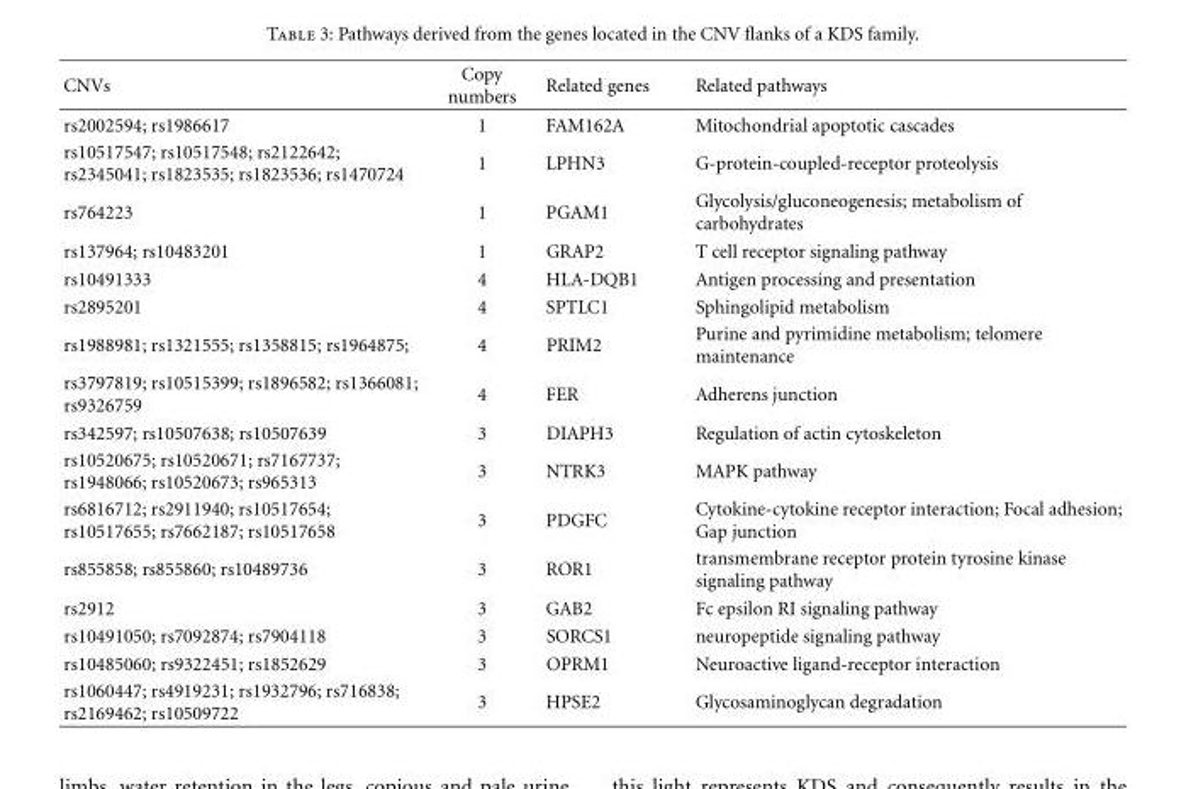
<table><thead><tr><td>CNVs</td><td>Copy numbers</td><td>Related genes</td><td>Related pathways</td></tr></thead><tbody><tr><td>rs2002594; rs1986617</td><td>1</td><td>FAM162A</td><td>Mitochondrial apoptotic cascades</td></tr><tr><td>rs10517547; rs10517548; rs2122642; rs2345041; rs1823535; rs1823536; rs1470724</td><td>1</td><td>LPHN3</td><td>G-protein-coupled-receptor proteolysis</td></tr><tr><td>rs764223</td><td>1</td><td>PGAM1</td><td>Glycolysis/gluconeogenesis; metabolism of carbohydrates</td></tr><tr><td>rs137964; rs10483201</td><td>1</td><td>GRAP2</td><td>T cell receptor signaling pathway</td></tr><tr><td>rs10491333</td><td>4</td><td>HLA-DQB1</td><td>Antigen processing and presentation</td></tr><tr><td>rs2895201</td><td>4</td><td>SPTLC1</td><td>Sphingolipid metabolism</td></tr><tr><td>rs1988981; rs1321555; rs1358815; rs1964875;</td><td>4</td><td>PRIM2</td><td>Purine and pyrimidine metabolism; telomere maintenance</td></tr><tr><td>rs3797819; rs10515399; rs1896582; rs1366081; rs9326759</td><td>4</td><td>FER</td><td>Adherens junction</td></tr><tr><td>rs342597; rs10507638; rs10507639</td><td>3</td><td>DIAPH3</td><td>Regulation of actin cytoskeleton</td></tr><tr><td>rs10520675; rs10520671; rs7167737; rs1948066; rs10520673; rs965313</td><td>3</td><td>NTRK3</td><td>MAPK pathway</td></tr><tr><td>rs6816712; rs2911940; rs10517654; rs10517655; rs7662187; rs10517658</td><td>3</td><td>PDGFC</td><td>Cytokine-cytokine receptor interaction; Focal adhesion; Gap junction</td></tr><tr><td>rs855858; rs855860; rs10489736</td><td>3</td><td>ROR1</td><td>transmembrane receptor protein tyrosine kinase signaling pathway</td></tr><tr><td>rs2912</td><td>3</td><td>GAB2</td><td>Fc epsilon RI signaling pathway</td></tr><tr><td>rs10491050; rs7092874; rs7904118</td><td>3</td><td>SORCS1</td><td>neuropeptide signaling pathway</td></tr><tr><td>rs10485060; rs9322451; rs1852629</td><td>3</td><td>OPRM1</td><td>Neuroactive ligand-receptor interaction</td></tr><tr><td>rs1060447; rs4919231; rs1932796; rs716838; rs2169462; rs10509722</td><td>3</td><td>HPSE2</td><td>Glycosaminoglycan degradation</td></tr></tbody></table>